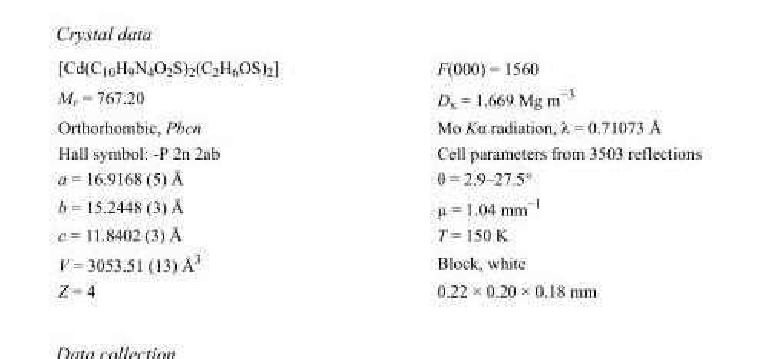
<table><tbody><tr><td>[Cd(C<sub>10</sub>H<sub>9</sub>N<sub>4</sub>O<sub>2</sub>S)<sub>2</sub>(C<sub>2</sub>H<sub>6</sub>OS)<sub>2</sub>]</td><td>F(000) = 1560</td></tr><tr><td>M<sub>r</sub> = 767.20</td><td>D<sub>x</sub> = 1.669 Mg m<sup>−3</sup></td></tr><tr><td>Orthorhombic, Pbcn</td><td>Mo Kα radiation, λ = 0.71073 Å</td></tr><tr><td>Hall symbol: -P 2n 2ab</td><td>Cell parameters from 3503 reflections</td></tr><tr><td>a = 16.9168 (5) Å</td><td>θ = 2.9–27.5°</td></tr><tr><td>b = 15.2448 (3) Å</td><td>µ = 1.04 mm<sup>−1</sup></td></tr><tr><td>c = 11.8402 (3) Å</td><td>T = 150 K</td></tr><tr><td>V = 3053.51 (13) Å<sup>3</sup></td><td>Block, white</td></tr><tr><td>Z = 4</td><td>0.22 × 0.20 × 0.18 mm</td></tr></tbody></table>